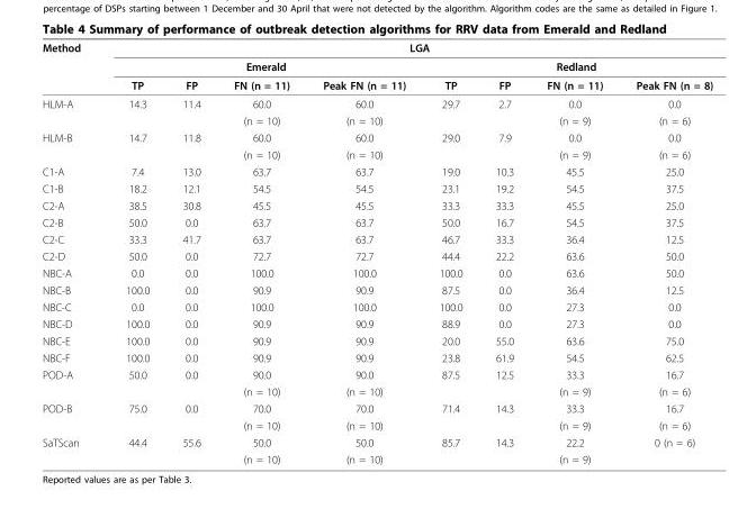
<table><thead><tr><td rowspan="3">Method</td><td colspan="8">LGA</td></tr><tr><td colspan="4">Emerald</td><td colspan="4">Redland</td></tr><tr><td>TP</td><td>FP</td><td>FN (n = 11)</td><td>Peak FN (n = 11)</td><td>TP</td><td>FP</td><td>FN (n = 11)</td><td>Peak FN (n = 8)</td></tr></thead><tbody><tr><td rowspan="2">HLM-A</td><td>14.3</td><td>11.4</td><td>60.0</td><td>60.0</td><td>29.7</td><td>2.7</td><td>0.0</td><td>0.0</td></tr><tr><td></td><td></td><td>(n = 10)</td><td>(n = 10)</td><td></td><td></td><td>(n = 9)</td><td>(n = 6)</td></tr><tr><td rowspan="2">HLM-B</td><td>14.7</td><td>11.8</td><td>60.0</td><td>60.0</td><td>29.0</td><td>7.9</td><td>0.0</td><td>0.0</td></tr><tr><td></td><td></td><td>(n = 10)</td><td>(n = 10)</td><td></td><td></td><td>(n = 9)</td><td>(n = 6)</td></tr><tr><td>C1-A</td><td>7.4</td><td>13.0</td><td>63.7</td><td>63.7</td><td>19.0</td><td>10.3</td><td>45.5</td><td>25.0</td></tr><tr><td>C1-B</td><td>18.2</td><td>12.1</td><td>54.5</td><td>54.5</td><td>23.1</td><td>19.2</td><td>54.5</td><td>37.5</td></tr><tr><td>C2-A</td><td>38.5</td><td>30.8</td><td>45.5</td><td>45.5</td><td>33.3</td><td>33.3</td><td>45.5</td><td>25.0</td></tr><tr><td>C2-B</td><td>50.0</td><td>0.0</td><td>63.7</td><td>63.7</td><td>50.0</td><td>16.7</td><td>54.5</td><td>37.5</td></tr><tr><td>C2-C</td><td>33.3</td><td>41.7</td><td>63.7</td><td>63.7</td><td>46.7</td><td>33.3</td><td>36.4</td><td>12.5</td></tr><tr><td>C2-D</td><td>50.0</td><td>0.0</td><td>72.7</td><td>72.7</td><td>44.4</td><td>22.2</td><td>63.6</td><td>50.0</td></tr><tr><td>NBC-A</td><td>0.0</td><td>0.0</td><td>100.0</td><td>100.0</td><td>100.0</td><td>0.0</td><td>63.6</td><td>50.0</td></tr><tr><td>NBC-B</td><td>100.0</td><td>0.0</td><td>90.9</td><td>90.9</td><td>87.5</td><td>0.0</td><td>36.4</td><td>12.5</td></tr><tr><td>NBC-C</td><td>0.0</td><td>0.0</td><td>100.0</td><td>100.0</td><td>100.0</td><td>0.0</td><td>27.3</td><td>0.0</td></tr><tr><td>NBC-D</td><td>100.0</td><td>0.0</td><td>90.9</td><td>90.9</td><td>88.9</td><td>0.0</td><td>27.3</td><td>0.0</td></tr><tr><td>NBC-E</td><td>100.0</td><td>0.0</td><td>90.9</td><td>90.9</td><td>20.0</td><td>55.0</td><td>63.6</td><td>75.0</td></tr><tr><td>NBC-F</td><td>100.0</td><td>0.0</td><td>90.9</td><td>90.9</td><td>23.8</td><td>61.9</td><td>54.5</td><td>62.5</td></tr><tr><td rowspan="2">POD-A</td><td>50.0</td><td>0.0</td><td>90.0</td><td>90.0</td><td>87.5</td><td>12.5</td><td>33.3</td><td>16.7</td></tr><tr><td></td><td></td><td>(n = 10)</td><td>(n = 10)</td><td></td><td></td><td>(n = 9)</td><td>(n = 6)</td></tr><tr><td rowspan="2">POD-B</td><td>75.0</td><td>0.0</td><td>70.0</td><td>70.0</td><td>71.4</td><td>14.3</td><td>33.3</td><td>16.7</td></tr><tr><td></td><td></td><td>(n = 10)</td><td>(n = 10)</td><td></td><td></td><td>(n = 9)</td><td>(n = 6)</td></tr><tr><td rowspan="2">SaTScan</td><td>44.4</td><td>55.6</td><td>50.0</td><td>50.0</td><td>85.7</td><td>14.3</td><td>22.2</td><td>0 (n = 6)</td></tr><tr><td></td><td></td><td>(n = 10)</td><td>(n = 10)</td><td></td><td></td><td>(n = 9)</td><td></td></tr></tbody></table>